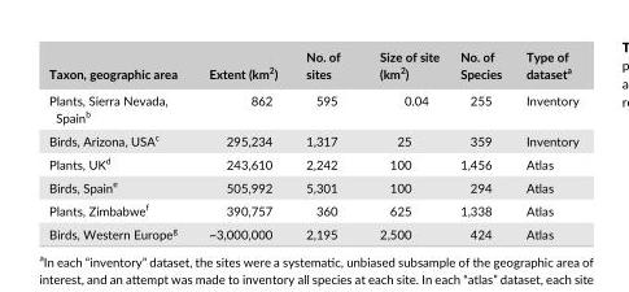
<table><thead><tr><td>Taxon, geographic area</td><td>Extent (km<sup>2</sup>)</td><td>No. of sites</td><td>Size of site (km<sup>2</sup>)</td><td>No. of Species</td><td>Type of dataset<sup>a</sup></td></tr></thead><tbody><tr><td>Plants, Sierra Nevada, Spain<sup>b</sup></td><td>862</td><td>595</td><td>0.04</td><td>255</td><td>Inventory</td></tr><tr><td>Birds, Arizona, USA<sup>c</sup></td><td>295,234</td><td>1,317</td><td>25</td><td>359</td><td>Inventory</td></tr><tr><td>Plants, UK<sup>d</sup></td><td>243,610</td><td>2,242</td><td>100</td><td>1,456</td><td>Atlas</td></tr><tr><td>Birds, Spain<sup>e</sup></td><td>505,992</td><td>5,301</td><td>100</td><td>294</td><td>Atlas</td></tr><tr><td>Plants, Zimbabwe<sup>f</sup></td><td>390,757</td><td>360</td><td>625</td><td>1,338</td><td>Atlas</td></tr><tr><td>Birds, Western Europe<sup>g</sup></td><td>~3,000,000</td><td>2,195</td><td>2,500</td><td>424</td><td>Atlas</td></tr></tbody></table>